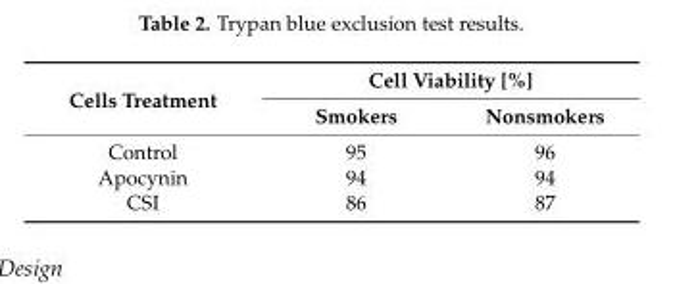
<table><thead><tr><td rowspan="2">Cells Treatment</td><td colspan="2">Cell Viability [%]</td></tr><tr><td>Smokers</td><td>Nonsmokers</td></tr></thead><tbody><tr><td>Control</td><td>95</td><td>96</td></tr><tr><td>Apocynin</td><td>94</td><td>94</td></tr><tr><td>CSI</td><td>86</td><td>87</td></tr></tbody></table>